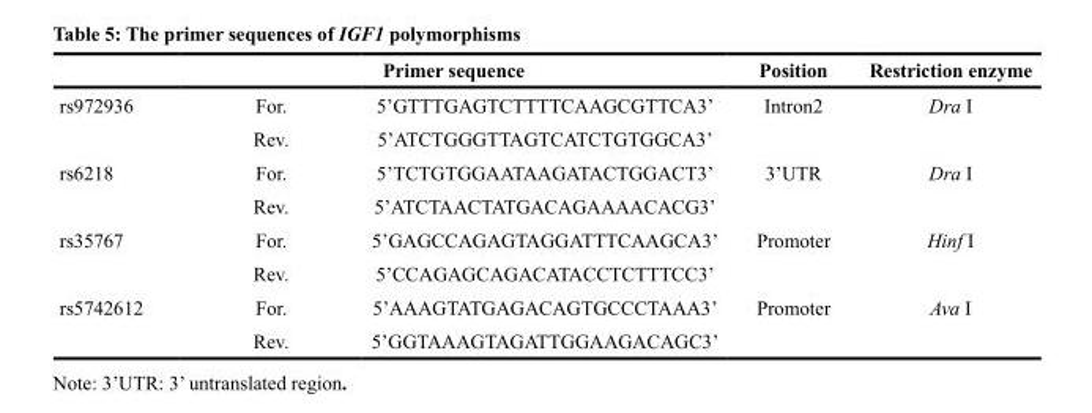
<table><thead><tr><td></td><td></td><td>Primer sequence</td><td>Position</td><td>Restriction enzyme</td></tr></thead><tbody><tr><td rowspan="2">rs972936</td><td>For.</td><td>5’GTTTGAGTCTTTTCAAGCGTTCA3’</td><td rowspan="2">Intron2</td><td rowspan="2">Dra I</td></tr><tr><td>Rev.</td><td>5’ATCTGGGTTAGTCATCTGTGGCA3’</td></tr><tr><td rowspan="2">rs6218</td><td>For.</td><td>5’TCTGTGGAATAAGATACTGGACT3’</td><td rowspan="2">3’UTR</td><td rowspan="2">Dra I</td></tr><tr><td>Rev.</td><td>5’ATCTAACTATGACAGAAAACACG3’</td></tr><tr><td rowspan="2">rs35767</td><td>For.</td><td>5’GAGCCAGAGTAGGATTTCAAGCA3’</td><td rowspan="2">Promoter</td><td rowspan="2">Hinf I</td></tr><tr><td>Rev.</td><td>5’CCAGAGCAGACATACCTCTTTCC3’</td></tr><tr><td rowspan="2">rs5742612</td><td>For.</td><td>5’AAAGTATGAGACAGTGCCCTAAA3’</td><td rowspan="2">Promoter</td><td rowspan="2">Ava I</td></tr><tr><td>Rev.</td><td>5’GGTAAAGTAGATTGGAAGACAGC3’</td></tr></tbody></table>